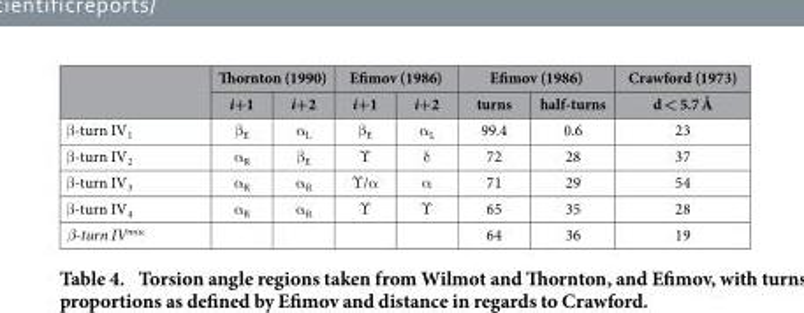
<table><thead><tr><td rowspan="2"></td><td colspan="2">Thornton (1990)</td><td colspan="2">Efimov (1986)</td><td colspan="2">Efimov (1986)</td><td rowspan="2">Crawford (1973) d &lt; 5.7 Å</td></tr><tr><td>i+1</td><td>i+2</td><td>i+1</td><td>i+2</td><td>turns</td><td>half-turns</td></tr></thead><tbody><tr><td>β -turn IV<sub>1</sub></td><td>β <sub>E</sub></td><td>α <sub>L</sub></td><td>β <sub>E</sub></td><td>α <sub>L</sub></td><td>99.4</td><td>0.6</td><td>23</td></tr><tr><td>β -turn IV<sub>2</sub></td><td>α <sub>R</sub></td><td>β <sub>E</sub></td><td>ϒ</td><td>δ</td><td>72</td><td>28</td><td>37</td></tr><tr><td>β -turn IV<sub>3</sub></td><td>α <sub>R</sub></td><td>α <sub>R</sub></td><td>ϒ /α</td><td>α</td><td>71</td><td>29</td><td>54</td></tr><tr><td>β -turn IV<sub>4</sub></td><td>α <sub>R</sub></td><td>α <sub>R</sub></td><td>ϒ</td><td>ϒ</td><td>65</td><td>35</td><td>28</td></tr><tr><td>β-turn IV<sup>misc</sup></td><td></td><td></td><td></td><td></td><td>64</td><td>36</td><td>19</td></tr></tbody></table>